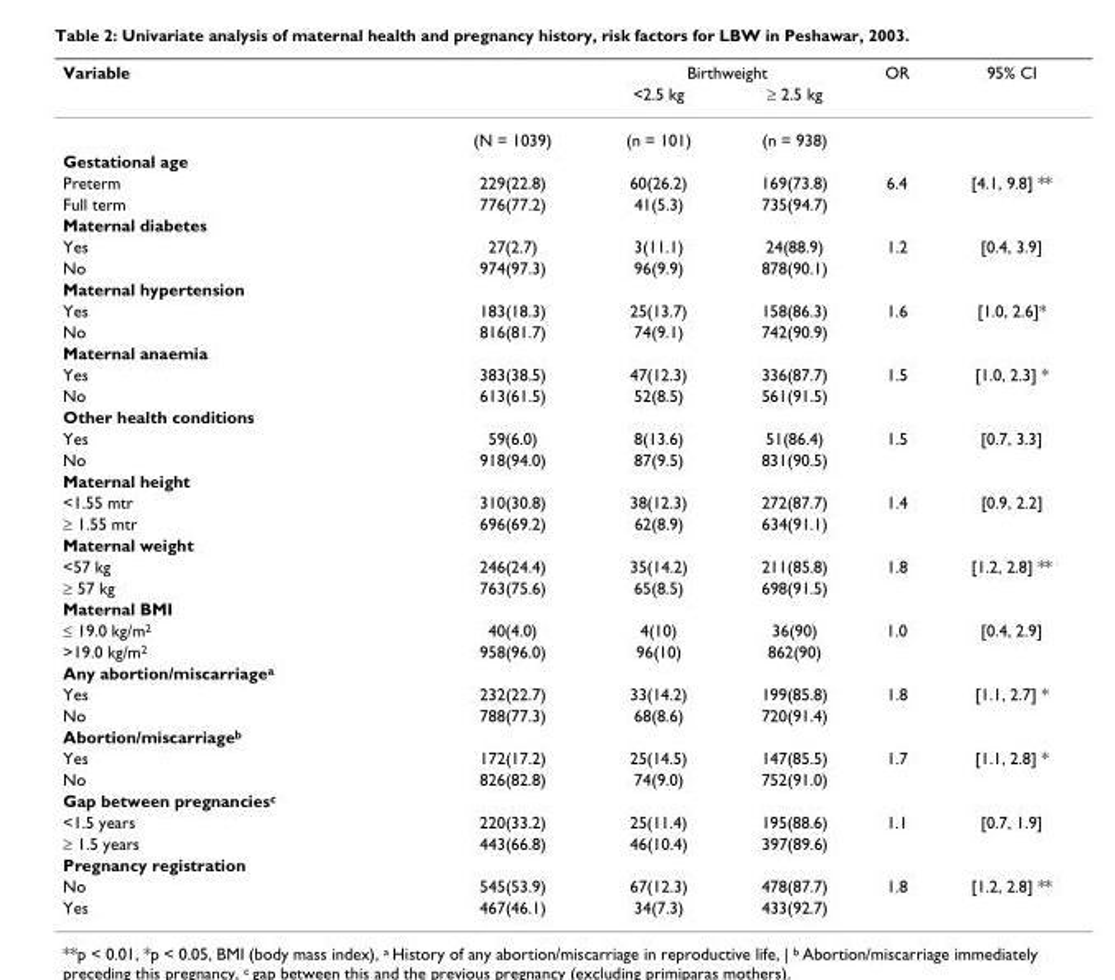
<table><thead><tr><td rowspan="2">Variable</td><td rowspan="2"></td><td colspan="2">Birthweight</td><td rowspan="2">OR</td><td rowspan="2">95% CI</td></tr><tr><td>&lt;2.5 kg</td><td>≥ 2.5 kg</td></tr></thead><tbody><tr><td></td><td>(N = 1039)</td><td>(n = 101)</td><td>(n = 938)</td><td></td><td></td></tr><tr><td colspan="6">Gestational age</td></tr><tr><td>Preterm</td><td>229(22.8)</td><td>60(26.2)</td><td>169(73.8)</td><td>6.4</td><td>[4.1, 9.8] **</td></tr><tr><td>Full term</td><td>776(77.2)</td><td>41(5.3)</td><td>735(94.7)</td><td></td><td></td></tr><tr><td colspan="6">Maternal diabetes</td></tr><tr><td>Yes</td><td>27(2.7)</td><td>3(11.1)</td><td>24(88.9)</td><td>1.2</td><td>[0.4, 3.9]</td></tr><tr><td>No</td><td>974(97.3)</td><td>96(9.9)</td><td>878(90.1)</td><td></td><td></td></tr><tr><td colspan="6">Maternal hypertension</td></tr><tr><td>Yes</td><td>183(18.3)</td><td>25(13.7)</td><td>158(86.3)</td><td>1.6</td><td>[1.0, 2.6]*</td></tr><tr><td>No</td><td>816(81.7)</td><td>74(9.1)</td><td>742(90.9)</td><td></td><td></td></tr><tr><td colspan="6">Maternal anaemia</td></tr><tr><td>Yes</td><td>383(38.5)</td><td>47(12.3)</td><td>336(87.7)</td><td>1.5</td><td>[1.0, 2.3] *</td></tr><tr><td>No</td><td>613(61.5)</td><td>52(8.5)</td><td>561(91.5)</td><td></td><td></td></tr><tr><td colspan="6">Other health conditions</td></tr><tr><td>Yes</td><td>59(6.0)</td><td>8(13.6)</td><td>51(86.4)</td><td>1.5</td><td>[0.7, 3.3]</td></tr><tr><td>No</td><td>918(94.0)</td><td>87(9.5)</td><td>831(90.5)</td><td></td><td></td></tr><tr><td colspan="6">Maternal height</td></tr><tr><td>&lt;1.55 mtr</td><td>310(30.8)</td><td>38(12.3)</td><td>272(87.7)</td><td>1.4</td><td>[0.9, 2.2]</td></tr><tr><td>≥ 1.55 mtr</td><td>696(69.2)</td><td>62(8.9)</td><td>634(91.1)</td><td></td><td></td></tr><tr><td colspan="6">Maternal weight</td></tr><tr><td>&lt;57 kg</td><td>246(24.4)</td><td>35(14.2)</td><td>211(85.8)</td><td>1.8</td><td>[1.2, 2.8] **</td></tr><tr><td>≥ 57 kg</td><td>763(75.6)</td><td>65(8.5)</td><td>698(91.5)</td><td></td><td></td></tr><tr><td colspan="6">Maternal BMI</td></tr><tr><td>≤ 19.0 kg/m<sup>2</sup></td><td>40(4.0)</td><td>4(10)</td><td>36(90)</td><td>1.0</td><td>[0.4, 2.9]</td></tr><tr><td>&gt;19.0 kg/m<sup>2</sup></td><td>958(96.0)</td><td>96(10)</td><td>862(90)</td><td></td><td></td></tr><tr><td colspan="6">Any abortion/miscarriage<sup>a</sup></td></tr><tr><td>Yes</td><td>232(22.7)</td><td>33(14.2)</td><td>199(85.8)</td><td>1.8</td><td>[1.1, 2.7] *</td></tr><tr><td>No</td><td>788(77.3)</td><td>68(8.6)</td><td>720(91.4)</td><td></td><td></td></tr><tr><td colspan="6">Abortion/miscarriage<sup>b</sup></td></tr><tr><td>Yes</td><td>172(17.2)</td><td>25(14.5)</td><td>147(85.5)</td><td>1.7</td><td>[1.1, 2.8] *</td></tr><tr><td>No</td><td>826(82.8)</td><td>74(9.0)</td><td>752(91.0)</td><td></td><td></td></tr><tr><td colspan="6">Gap between pregnancies<sup>c</sup></td></tr><tr><td>&lt;1.5 years</td><td>220(33.2)</td><td>25(11.4)</td><td>195(88.6)</td><td>1.1</td><td>[0.7, 1.9]</td></tr><tr><td>≥ 1.5 years</td><td>443(66.8)</td><td>46(10.4)</td><td>397(89.6)</td><td></td><td></td></tr><tr><td colspan="6">Pregnancy registration</td></tr><tr><td>No</td><td>545(53.9)</td><td>67(12.3)</td><td>478(87.7)</td><td>1.8</td><td>[1.2, 2.8] **</td></tr><tr><td>Yes</td><td>467(46.1)</td><td>34(7.3)</td><td>433(92.7)</td><td></td><td></td></tr></tbody></table>